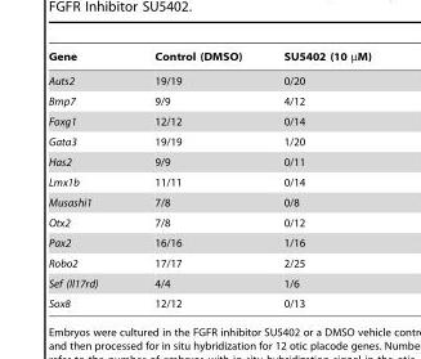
<table><thead><tr><td>Gene</td><td>Control (DMSO)</td><td>SU5402 (10 µM)</td></tr></thead><tbody><tr><td>Auts2</td><td>19/19</td><td>0/20</td></tr><tr><td>Bmp7</td><td>9/9</td><td>4/12</td></tr><tr><td>Foxg1</td><td>12/12</td><td>0/14</td></tr><tr><td>Gata3</td><td>19/19</td><td>1/20</td></tr><tr><td>Has2</td><td>9/9</td><td>0/11</td></tr><tr><td>Lmx1b</td><td>11/11</td><td>0/14</td></tr><tr><td>Musashi1</td><td>7/8</td><td>0/8</td></tr><tr><td>Otx2</td><td>7/8</td><td>0/12</td></tr><tr><td>Pax2</td><td>16/16</td><td>1/16</td></tr><tr><td>Robo2</td><td>17/17</td><td>2/25</td></tr><tr><td>Sef (Il17rd)</td><td>4/4</td><td>1/6</td></tr><tr><td>Sox8</td><td>12/12</td><td>0/13</td></tr></tbody></table>